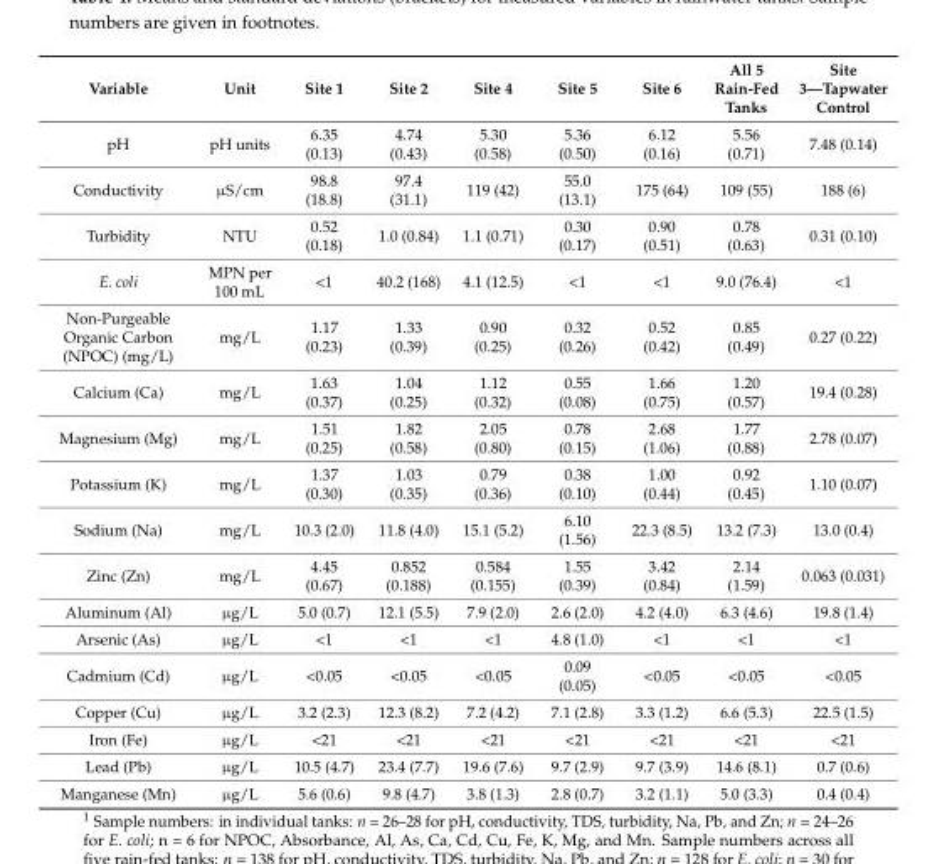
<table><thead><tr><td>Variable</td><td>Unit</td><td>Site 1</td><td>Site 2</td><td>Site 4</td><td>Site 5</td><td>Site 6</td><td>All 5 Rain-Fed Tanks</td><td>Site 3—Tapwater Control</td></tr></thead><tbody><tr><td>pH</td><td>pH units</td><td>6.35 (0.13)</td><td>4.74 (0.43)</td><td>5.30 (0.58)</td><td>5.36 (0.50)</td><td>6.12 (0.16)</td><td>5.56 (0.71)</td><td>7.48 (0.14)</td></tr><tr><td>Conductivity</td><td>µS/cm</td><td>98.8 (18.8)</td><td>97.4 (31.1)</td><td>119 (42)</td><td>55.0 (13.1)</td><td>175 (64)</td><td>109 (55)</td><td>188 (6)</td></tr><tr><td>Turbidity</td><td>NTU</td><td>0.52 (0.18)</td><td>1.0 (0.84)</td><td>1.1 (0.71)</td><td>0.30 (0.17)</td><td>0.90 (0.51)</td><td>0.78 (0.63)</td><td>0.31 (0.10)</td></tr><tr><td>E. coli</td><td>MPN per 100 mL</td><td>&lt;1</td><td>40.2 (168)</td><td>4.1 (12.5)</td><td>&lt;1</td><td>&lt;1</td><td>9.0 (76.4)</td><td>&lt;1</td></tr><tr><td>Non-Purgeable Organic Carbon (NPOC) (mg/L)</td><td>mg/L</td><td>1.17 (0.23)</td><td>1.33 (0.39)</td><td>0.90 (0.25)</td><td>0.32 (0.26)</td><td>0.52 (0.42)</td><td>0.85 (0.49)</td><td>0.27 (0.22)</td></tr><tr><td>Calcium (Ca)</td><td>mg/L</td><td>1.63 (0.37)</td><td>1.04 (0.25)</td><td>1.12 (0.32)</td><td>0.55 (0.08)</td><td>1.66 (0.75)</td><td>1.20 (0.57)</td><td>19.4 (0.28)</td></tr><tr><td>Magnesium (Mg)</td><td>mg/L</td><td>1.51 (0.25)</td><td>1.82 (0.58)</td><td>2.05 (0.80)</td><td>0.78 (0.15)</td><td>2.68 (1.06)</td><td>1.77 (0.88)</td><td>2.78 (0.07)</td></tr><tr><td>Potassium (K)</td><td>mg/L</td><td>1.37 (0.30)</td><td>1.03 (0.35)</td><td>0.79 (0.36)</td><td>0.38 (0.10)</td><td>1.00 (0.44)</td><td>0.92 (0.45)</td><td>1.10 (0.07)</td></tr><tr><td>Sodium (Na)</td><td>mg/L</td><td>10.3 (2.0)</td><td>11.8 (4.0)</td><td>15.1 (5.2)</td><td>6.10 (1.56)</td><td>22.3 (8.5)</td><td>13.2 (7.3)</td><td>13.0 (0.4)</td></tr><tr><td>Zinc (Zn)</td><td>mg/L</td><td>4.45 (0.67)</td><td>0.852 (0.188)</td><td>0.584 (0.155)</td><td>1.55 (0.39)</td><td>3.42 (0.84)</td><td>2.14 (1.59)</td><td>0.063 (0.031)</td></tr><tr><td>Aluminum (Al)</td><td>µg/L</td><td>5.0 (0.7)</td><td>12.1 (5.5)</td><td>7.9 (2.0)</td><td>2.6 (2.0)</td><td>4.2 (4.0)</td><td>6.3 (4.6)</td><td>19.8 (1.4)</td></tr><tr><td>Arsenic (As)</td><td>µg/L</td><td>&lt;1</td><td>&lt;1</td><td>&lt;1</td><td>4.8 (1.0)</td><td>&lt;1</td><td>&lt;1</td><td>&lt;1</td></tr><tr><td>Cadmium (Cd)</td><td>µg/L</td><td>&lt;0.05</td><td>&lt;0.05</td><td>&lt;0.05</td><td>0.09 (0.05)</td><td>&lt;0.05</td><td>&lt;0.05</td><td>&lt;0.05</td></tr><tr><td>Copper (Cu)</td><td>µg/L</td><td>3.2 (2.3)</td><td>12.3 (8.2)</td><td>7.2 (4.2)</td><td>7.1 (2.8)</td><td>3.3 (1.2)</td><td>6.6 (5.3)</td><td>22.5 (1.5)</td></tr><tr><td>Iron (Fe)</td><td>µg/L</td><td>&lt;21</td><td>&lt;21</td><td>&lt;21</td><td>&lt;21</td><td>&lt;21</td><td>&lt;21</td><td>&lt;21</td></tr><tr><td>Lead (Pb)</td><td>µg/L</td><td>10.5 (4.7)</td><td>23.4 (7.7)</td><td>19.6 (7.6)</td><td>9.7 (2.9)</td><td>9.7 (3.9)</td><td>14.6 (8.1)</td><td>0.7 (0.6)</td></tr><tr><td>Manganese (Mn)</td><td>µg/L</td><td>5.6 (0.6)</td><td>9.8 (4.7)</td><td>3.8 (1.3)</td><td>2.8 (0.7)</td><td>3.2 (1.1)</td><td>5.0 (3.3)</td><td>0.4 (0.4)</td></tr></tbody></table>